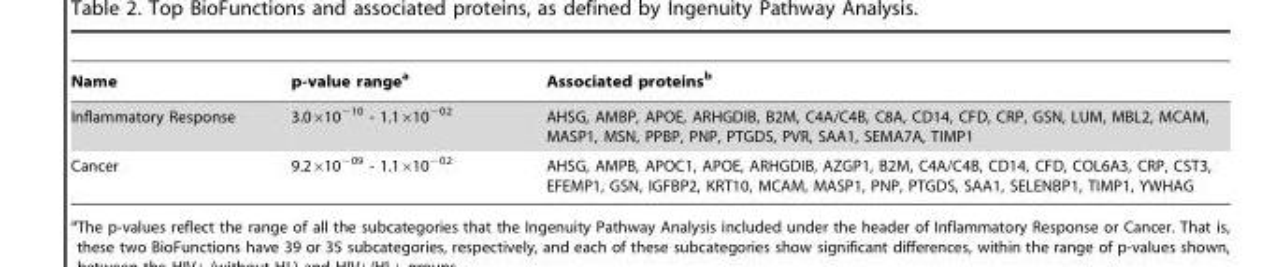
<table><thead><tr><td>Name</td><td>p-value range<sup>a</sup></td><td>Associated proteins<sup>b</sup></td></tr></thead><tbody><tr><td>Inflammatory Response</td><td>3.0×10<sup>−10</sup> - 1.1×10<sup>−02</sup></td><td>AHSG, AMBP, APOE, ARHGDIB, B2M, C4A/C4B, C8A, CD14, CFD, CRP, GSN, LUM, MBL2, MCAM, MASP1, MSN, PPBP, PNP, PTGDS, PVR, SAA1, SEMA7A, TIMP1</td></tr><tr><td>Cancer</td><td>9.2×10<sup>−09</sup> - 1.1×10<sup>−02</sup></td><td>AHSG, AMPB, APOC1, APOE, ARHGDIB, AZGP1, B2M, C4A/C4B, CD14, CFD, COL6A3, CRP, CST3, EFEMP1, GSN, IGFBP2, KRT10, MCAM, MASP1, PNP, PTGDS, SAA1, SELENBP1, TIMP1, YWHAG</td></tr></tbody></table>